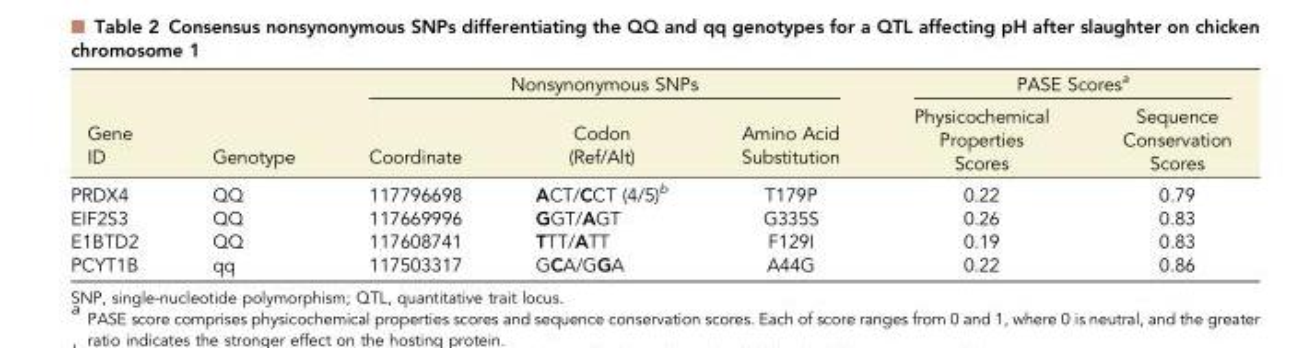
<table><thead><tr><td rowspan="2">Gene ID</td><td rowspan="2">Genotype</td><td colspan="3">Nonsynonymous SNPs</td><td colspan="2">PASE Scoresa</td></tr><tr><td>Coordinate</td><td>Codon (Ref/Alt)</td><td>Amino Acid Substitution</td><td>Physicochemical Properties Scores</td><td>Sequence Conservation Scores</td></tr></thead><tbody><tr><td>PRDX4</td><td>QQ</td><td>117796698</td><td>ACT/CCT (4/5)b</td><td>T179P</td><td>0.22</td><td>0.79</td></tr><tr><td>EIF2S3</td><td>QQ</td><td>117669996</td><td>GGT/AGT</td><td>G335S</td><td>0.26</td><td>0.83</td></tr><tr><td>E1BTD2</td><td>QQ</td><td>117608741</td><td>TTT/ATT</td><td>F129I</td><td>0.19</td><td>0.83</td></tr><tr><td>PCYT1B</td><td>qq</td><td>117503317</td><td>GCA/GGA</td><td>A44G</td><td>0.22</td><td>0.86</td></tr></tbody></table>